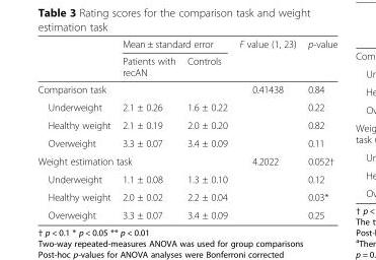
<table><thead><tr><td rowspan="2"></td><td colspan="2">Mean ± standard error</td><td rowspan="2">F value (1, 23)</td><td rowspan="2">p-value</td></tr><tr><td>Patients with recAN</td><td>Controls</td></tr></thead><tbody><tr><td colspan="3">Comparison task</td><td rowspan="4">0.41438</td><td>0.84</td></tr><tr><td>Underweight</td><td>2.1 ± 0.26</td><td>1.6 ± 0.22</td><td>0.22</td></tr><tr><td>Healthy weight</td><td>2.1 ± 0.19</td><td>2.0 ± 0.20</td><td>0.82</td></tr><tr><td>Overweight</td><td>3.3 ± 0.07</td><td>3.4 ± 0.09</td><td>0.11</td></tr><tr><td colspan="3">Weight estimation task</td><td rowspan="4">4.2022</td><td>0.052†</td></tr><tr><td>Underweight</td><td>1.1 ± 0.08</td><td>1.3 ± 0.10</td><td>0.12</td></tr><tr><td>Healthy weight</td><td>2.0 ± 0.02</td><td>2.2 ± 0.04</td><td>0.03*</td></tr><tr><td>Overweight</td><td>3.3 ± 0.07</td><td>3.4 ± 0.09</td><td>0.25</td></tr></tbody></table>